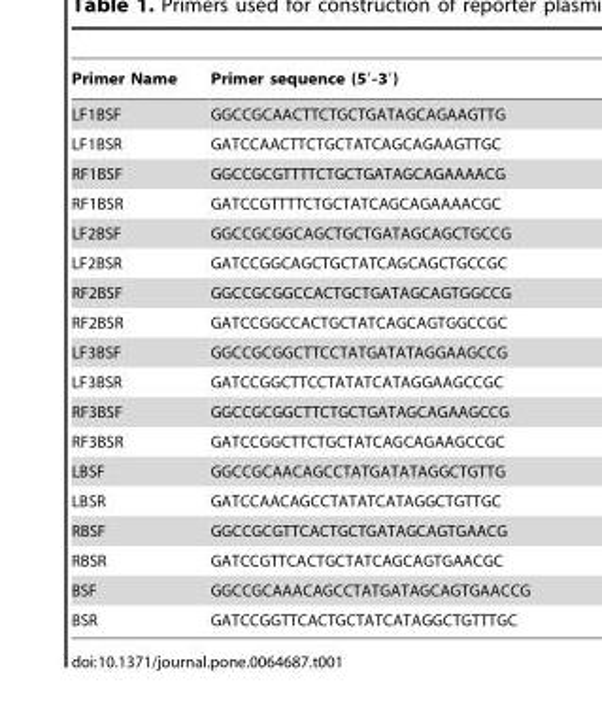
<table><thead><tr><td>Primer Name</td><td>Primer sequence (5′-3′)</td></tr></thead><tbody><tr><td>LF1BSF</td><td>GGCCGCAACTTCTGCTGATAGCAGAAGTTG</td></tr><tr><td>LF1BSR</td><td>GATCCAACTTCTGCTATCAGCAGAAGTTGC</td></tr><tr><td>RF1BSF</td><td>GGCCGCGTTTTCTGCTGATAGCAGAAAACG</td></tr><tr><td>RF1BSR</td><td>GATCCGTTTTCTGCTATCAGCAGAAAACGC</td></tr><tr><td>LF2BSF</td><td>GGCCGCGGCAGCTGCTGATAGCAGCTGCCG</td></tr><tr><td>LF2BSR</td><td>GATCCGGCAGCTGCTATCAGCAGCTGCCGC</td></tr><tr><td>RF2BSF</td><td>GGCCGCGGCCACTGCTGATAGCAGTGGCCG</td></tr><tr><td>RF2BSR</td><td>GATCCGGCCACTGCTATCAGCAGTGGCCGC</td></tr><tr><td>LF3BSF</td><td>GGCCGCGGCTTCCTATGATATAGGAAGCCG</td></tr><tr><td>LF3BSR</td><td>GATCCGGCTTCCTATATCATAGGAAGCCGC</td></tr><tr><td>RF3BSF</td><td>GGCCGCGGCTTCTGCTGATAGCAGAAGCCG</td></tr><tr><td>RF3BSR</td><td>GATCCGGCTTCTGCTATCAGCAGAAGCCGC</td></tr><tr><td>LBSF</td><td>GGCCGCAACAGCCTATGATATAGGCTGTTG</td></tr><tr><td>LBSR</td><td>GATCCAACAGCCTATATCATAGGCTGTTGC</td></tr><tr><td>RBSF</td><td>GGCCGCGTTCACTGCTGATAGCAGTGAACG</td></tr><tr><td>RBSR</td><td>GATCCGTTCACTGCTATCAGCAGTGAACGC</td></tr><tr><td>BSF</td><td>GGCCGCAAACAGCCTATGATAGCAGTGAACCG</td></tr><tr><td>BSR</td><td>GATCCGGTTCACTGCTATCATAGGCTGTTTGC</td></tr></tbody></table>